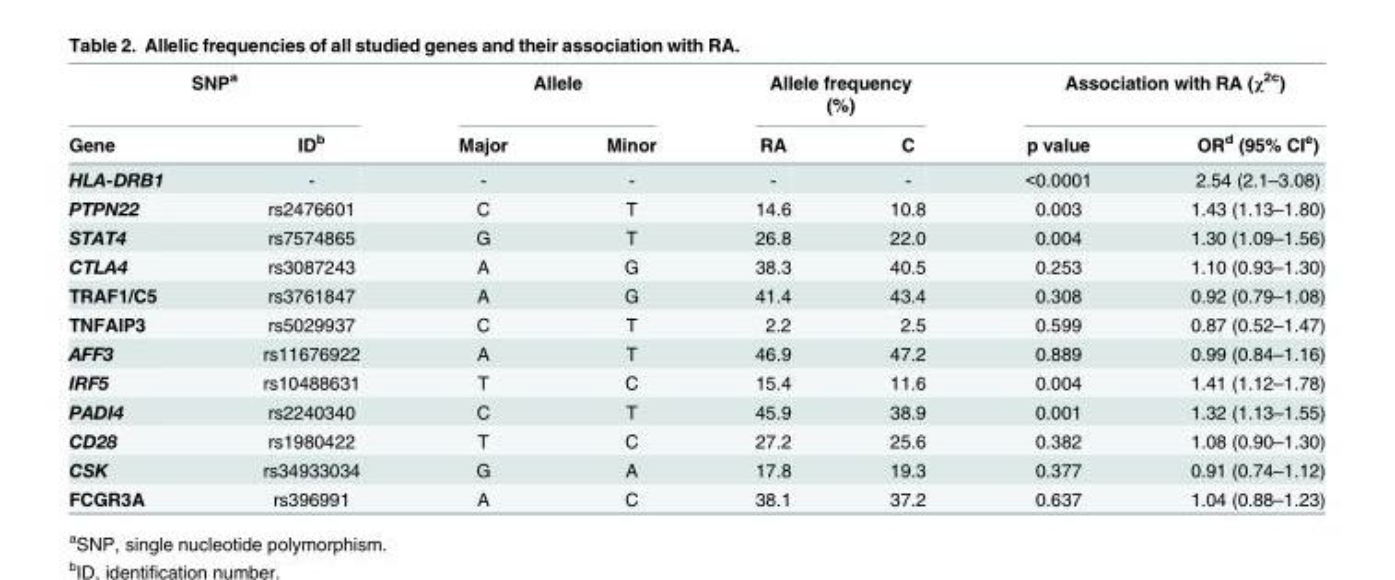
<table><thead><tr><td colspan="2">SNP<sup>a</sup></td><td colspan="2">Allele</td><td colspan="2">Allele frequency (%)</td><td colspan="2">Association with RA (χ<sup>2c</sup>)</td></tr><tr><td>Gene</td><td>ID<sup>b</sup></td><td>Major</td><td>Minor</td><td>RA</td><td>C</td><td>p value</td><td>OR<sup>d</sup> (95% CI<sup>e</sup>)</td></tr></thead><tbody><tr><td>HLA-DRB1</td><td>-</td><td>-</td><td>-</td><td>-</td><td>-</td><td>&lt;0.0001</td><td>2.54 (2.1–3.08)</td></tr><tr><td>PTPN22</td><td>rs2476601</td><td>C</td><td>T</td><td>14.6</td><td>10.8</td><td>0.003</td><td>1.43 (1.13–1.80)</td></tr><tr><td>STAT4</td><td>rs7574865</td><td>G</td><td>T</td><td>26.8</td><td>22.0</td><td>0.004</td><td>1.30 (1.09–1.56)</td></tr><tr><td>CTLA4</td><td>rs3087243</td><td>A</td><td>G</td><td>38.3</td><td>40.5</td><td>0.253</td><td>1.10 (0.93–1.30)</td></tr><tr><td>TRAF1/C5</td><td>rs3761847</td><td>A</td><td>G</td><td>41.4</td><td>43.4</td><td>0.308</td><td>0.92 (0.79–1.08)</td></tr><tr><td>TNFAIP3</td><td>rs5029937</td><td>C</td><td>T</td><td>2.2</td><td>2.5</td><td>0.599</td><td>0.87 (0.52–1.47)</td></tr><tr><td>AFF3</td><td>rs11676922</td><td>A</td><td>T</td><td>46.9</td><td>47.2</td><td>0.889</td><td>0.99 (0.84–1.16)</td></tr><tr><td>IRF5</td><td>rs10488631</td><td>T</td><td>C</td><td>15.4</td><td>11.6</td><td>0.004</td><td>1.41 (1.12–1.78)</td></tr><tr><td>PADI4</td><td>rs2240340</td><td>C</td><td>T</td><td>45.9</td><td>38.9</td><td>0.001</td><td>1.32 (1.13–1.55)</td></tr><tr><td>CD28</td><td>rs1980422</td><td>T</td><td>C</td><td>27.2</td><td>25.6</td><td>0.382</td><td>1.08 (0.90–1.30)</td></tr><tr><td>CSK</td><td>rs34933034</td><td>G</td><td>A</td><td>17.8</td><td>19.3</td><td>0.377</td><td>0.91 (0.74–1.12)</td></tr><tr><td>FCGR3A</td><td>rs396991</td><td>A</td><td>C</td><td>38.1</td><td>37.2</td><td>0.637</td><td>1.04 (0.88–1.23)</td></tr></tbody></table>